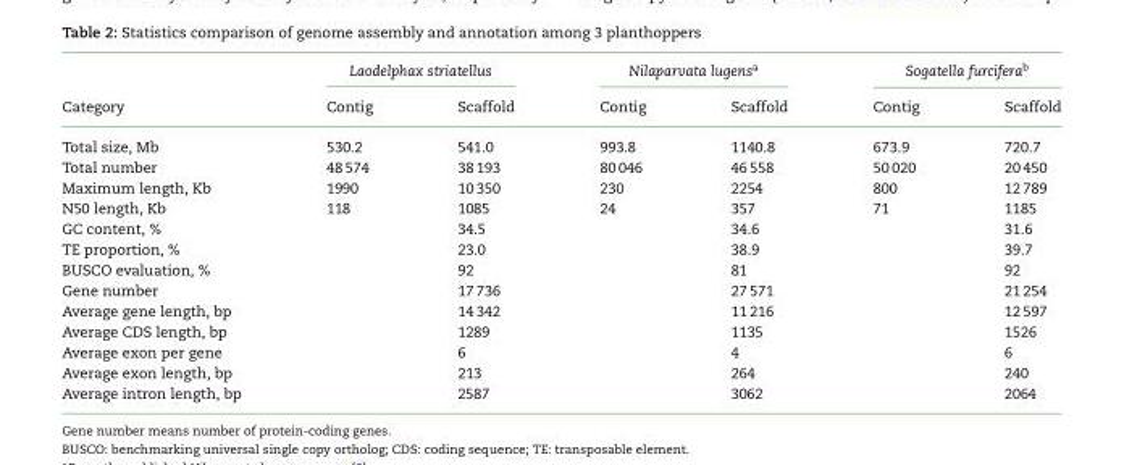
<table><thead><tr><td rowspan="2">Category</td><td colspan="2">Laodelphax striatellus</td><td colspan="2">Nilaparvata lugens<sup>a</sup></td><td colspan="2">Sogatella furcifera<sup>b</sup></td></tr><tr><td>Contig</td><td>Scaffold</td><td>Contig</td><td>Scaffold</td><td>Contig</td><td>Scaffold</td></tr></thead><tbody><tr><td>Total size, Mb</td><td>530.2</td><td>541.0</td><td>993.8</td><td>1140.8</td><td>673.9</td><td>720.7</td></tr><tr><td>Total number</td><td>48 574</td><td>38 193</td><td>80 046</td><td>46 558</td><td>50 020</td><td>20 450</td></tr><tr><td>Maximum length, Kb</td><td>1990</td><td>10 350</td><td>230</td><td>2254</td><td>800</td><td>12 789</td></tr><tr><td>N50 length, Kb</td><td>118</td><td>1085</td><td>24</td><td>357</td><td>71</td><td>1185</td></tr><tr><td>GC content, %</td><td></td><td>34.5</td><td></td><td>34.6</td><td></td><td>31.6</td></tr><tr><td>TE proportion, %</td><td></td><td>23.0</td><td></td><td>38.9</td><td></td><td>39.7</td></tr><tr><td>BUSCO evaluation, %</td><td></td><td>92</td><td></td><td>81</td><td></td><td>92</td></tr><tr><td>Gene number</td><td></td><td>17 736</td><td></td><td>27 571</td><td></td><td>21 254</td></tr><tr><td>Average gene length, bp</td><td></td><td>14 342</td><td></td><td>11 216</td><td></td><td>12 597</td></tr><tr><td>Average CDS length, bp</td><td></td><td>1289</td><td></td><td>1135</td><td></td><td>1526</td></tr><tr><td>Average exon per gene</td><td></td><td>6</td><td></td><td>4</td><td></td><td>6</td></tr><tr><td>Average exon length, bp</td><td></td><td>213</td><td></td><td>264</td><td></td><td>240</td></tr><tr><td>Average intron length, bp</td><td></td><td>2587</td><td></td><td>3062</td><td></td><td>2064</td></tr></tbody></table>